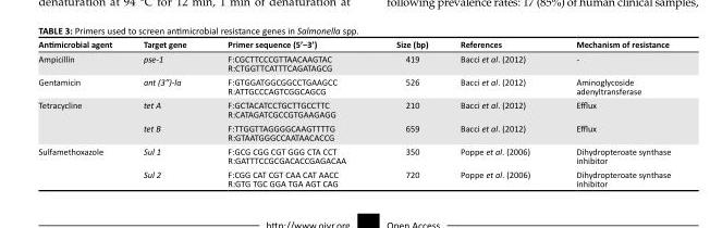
<table><thead><tr><td>Antimicrobial agent</td><td>Target gene</td><td>Primer sequence (5’–3’)</td><td>Size (bp)</td><td>References</td><td>Mechanism of resistance</td></tr></thead><tbody><tr><td>Ampicillin</td><td>pse-1</td><td>F:CGCTTCCCGTTAACAAGTAC R:CTGGTTCATTTCAGATAGCG</td><td>419</td><td>Bacci et al. (2012)</td><td>-</td></tr><tr><td>Gentamicin</td><td>ant (3”)-la</td><td>F:GTGGATGGCGGCCTGAAGCC R:ATTGCCCAGTCGGCAGCG</td><td>526</td><td>Bacci et al. (2012)</td><td>Aminoglycoside adenyltransferase</td></tr><tr><td rowspan="2">Tetracycline</td><td>tet A</td><td>F:GCTACATCCTGCTTGCCTTC R:CATAGATCGCCGTGAAGAGG</td><td>210</td><td>Bacci et al. (2012)</td><td>Efflux</td></tr><tr><td>tet B</td><td>F:TTGGTTAGGGGCAAGTTTTG R:GTAATGGGCCAATAACACCG</td><td>659</td><td>Bacci et al. (2012)</td><td>Efflux</td></tr><tr><td rowspan="2">Sulfamethoxazole</td><td>Sul 1</td><td>F:GCG CGG CGT GGG CTA CCT R:GATTTCCGCGACACCGAGACAA</td><td>350</td><td>Poppe et al. (2006)</td><td>Dihydropteroate synthase inhibitor</td></tr><tr><td>Sul 2</td><td>F:CGG CAT CGT CAA CAT AACC R:GTG TGC GGA TGA AGT CAG</td><td>720</td><td>Poppe et al. (2006)</td><td>Dihydropteroate synthase inhibitor</td></tr></tbody></table>